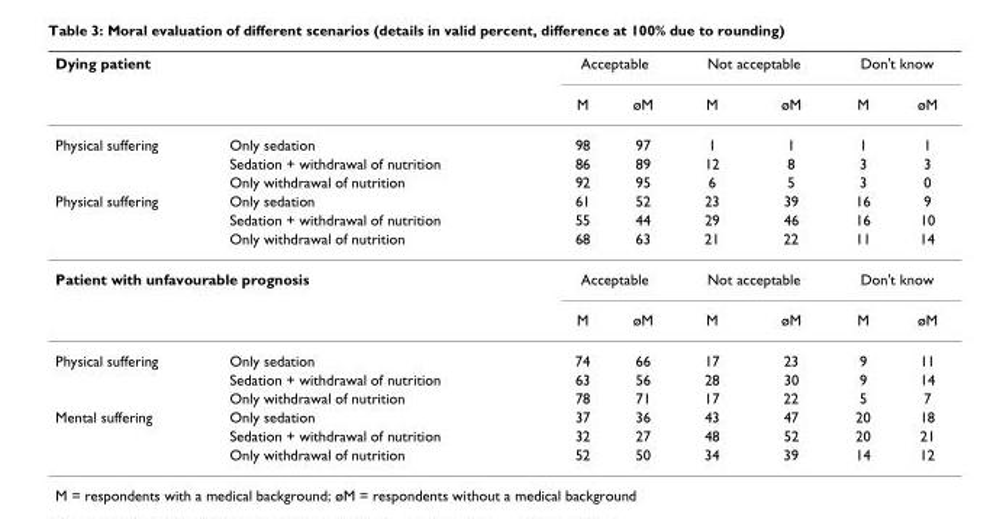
<table><thead><tr><td colspan="2">Dying patient</td><td colspan="2">Acceptable</td><td colspan="2">Not acceptable</td><td colspan="2">Don&#x27;t know</td></tr><tr><td></td><td></td><td>M</td><td>øM</td><td>M</td><td>øM</td><td>M</td><td>øM</td></tr></thead><tbody><tr><td rowspan="3">Physical suffering</td><td>Only sedation</td><td>98</td><td>97</td><td>1</td><td>1</td><td>1</td><td>1</td></tr><tr><td>Sedation + withdrawal of nutrition</td><td>86</td><td>89</td><td>12</td><td>8</td><td>3</td><td>3</td></tr><tr><td>Only withdrawal of nutrition</td><td>92</td><td>95</td><td>6</td><td>5</td><td>3</td><td>0</td></tr><tr><td rowspan="3">Physical suffering</td><td>Only sedation</td><td>61</td><td>52</td><td>23</td><td>39</td><td>16</td><td>9</td></tr><tr><td>Sedation + withdrawal of nutrition</td><td>55</td><td>44</td><td>29</td><td>46</td><td>16</td><td>10</td></tr><tr><td>Only withdrawal of nutrition</td><td>68</td><td>63</td><td>21</td><td>22</td><td>11</td><td>14</td></tr><tr><td colspan="2">Patient with unfavourable prognosis</td><td colspan="2">Acceptable</td><td colspan="2">Not acceptable</td><td colspan="2">Don&#x27;t know</td></tr><tr><td></td><td></td><td>M</td><td>øM</td><td>M</td><td>øM</td><td>M</td><td>øM</td></tr><tr><td rowspan="3">Physical suffering</td><td>Only sedation</td><td>74</td><td>66</td><td>17</td><td>23</td><td>9</td><td>11</td></tr><tr><td>Sedation + withdrawal of nutrition</td><td>63</td><td>56</td><td>28</td><td>30</td><td>9</td><td>14</td></tr><tr><td>Only withdrawal of nutrition</td><td>78</td><td>71</td><td>17</td><td>22</td><td>5</td><td>7</td></tr><tr><td rowspan="3">Mental suffering</td><td>Only sedation</td><td>37</td><td>36</td><td>43</td><td>47</td><td>20</td><td>18</td></tr><tr><td>Sedation + withdrawal of nutrition</td><td>32</td><td>27</td><td>48</td><td>52</td><td>20</td><td>21</td></tr><tr><td>Only withdrawal of nutrition</td><td>52</td><td>50</td><td>34</td><td>39</td><td>14</td><td>12</td></tr></tbody></table>